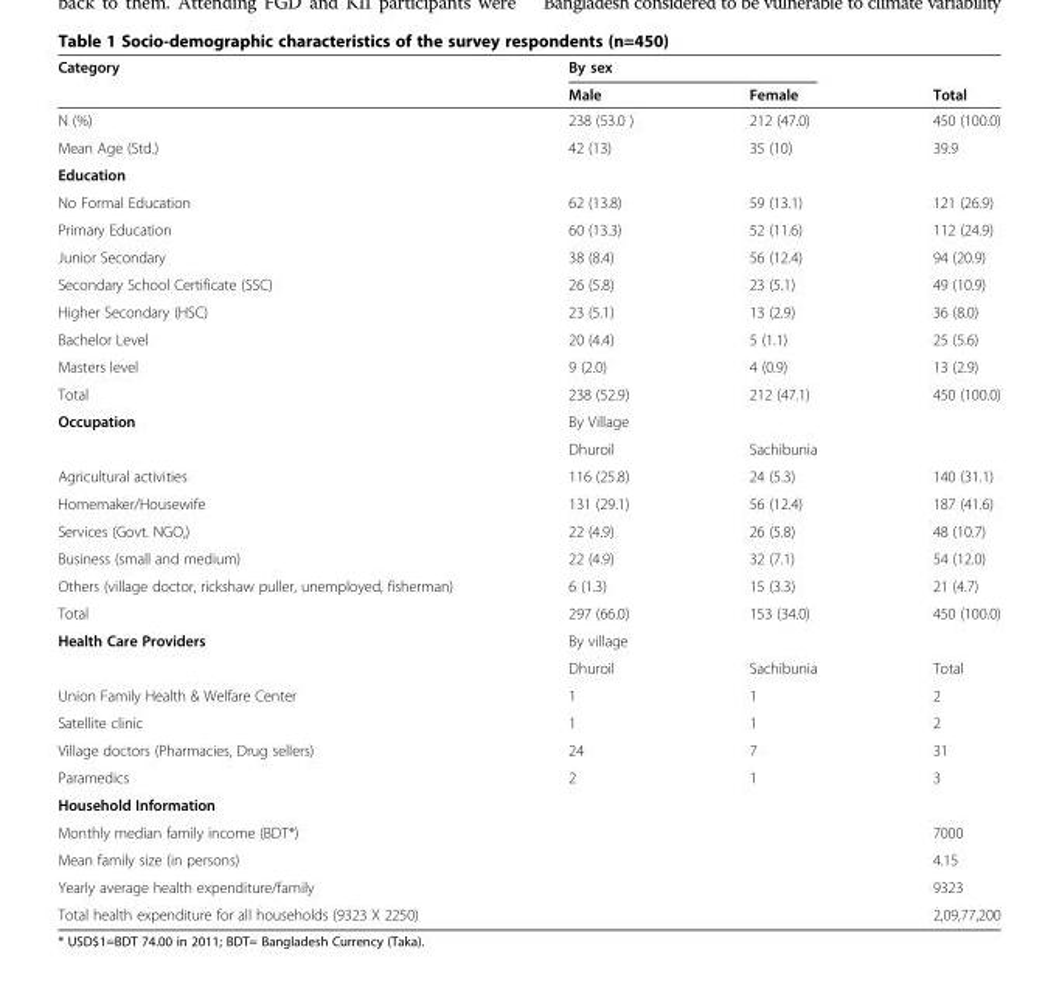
<table><thead><tr><td rowspan="2">Category</td><td colspan="2">By sex</td><td rowspan="2">Total</td></tr><tr><td>Male</td><td>Female</td></tr></thead><tbody><tr><td>N (%)</td><td>238 (53.0 )</td><td>212 (47.0)</td><td>450 (100.0)</td></tr><tr><td>Mean Age (Std.)</td><td>42 (13)</td><td>35 (10)</td><td>39.9</td></tr><tr><td colspan="4">Education</td></tr><tr><td>No Formal Education</td><td>62 (13.8)</td><td>59 (13.1)</td><td>121 (26.9)</td></tr><tr><td>Primary Education</td><td>60 (13.3)</td><td>52 (11.6)</td><td>112 (24.9)</td></tr><tr><td>Junior Secondary</td><td>38 (8.4)</td><td>56 (12.4)</td><td>94 (20.9)</td></tr><tr><td>Secondary School Certificate (SSC)</td><td>26 (5.8)</td><td>23 (5.1)</td><td>49 (10.9)</td></tr><tr><td>Higher Secondary (HSC)</td><td>23 (5.1)</td><td>13 (2.9)</td><td>36 (8.0)</td></tr><tr><td>Bachelor Level</td><td>20 (4.4)</td><td>5 (1.1)</td><td>25 (5.6)</td></tr><tr><td>Masters level</td><td>9 (2.0)</td><td>4 (0.9)</td><td>13 (2.9)</td></tr><tr><td>Total</td><td>238 (52.9)</td><td>212 (47.1)</td><td>450 (100.0)</td></tr><tr><td rowspan="2">Occupation</td><td colspan="2">By Village</td><td></td></tr><tr><td>Dhuroil</td><td>Sachibunia</td><td></td></tr><tr><td>Agricultural activities</td><td>116 (25.8)</td><td>24 (5.3)</td><td>140 (31.1)</td></tr><tr><td>Homemaker/Housewife</td><td>131 (29.1)</td><td>56 (12.4)</td><td>187 (41.6)</td></tr><tr><td>Services (Govt. NGO,)</td><td>22 (4.9)</td><td>26 (5.8)</td><td>48 (10.7)</td></tr><tr><td>Business (small and medium)</td><td>22 (4.9)</td><td>32 (7.1)</td><td>54 (12.0)</td></tr><tr><td>Others (village doctor, rickshaw puller, unemployed, fisherman)</td><td>6 (1.3)</td><td>15 (3.3)</td><td>21 (4.7)</td></tr><tr><td>Total</td><td>297 (66.0)</td><td>153 (34.0)</td><td>450 (100.0)</td></tr><tr><td rowspan="2">Health Care Providers</td><td colspan="3">By village</td></tr><tr><td>Dhuroil</td><td>Sachibunia</td><td>Total</td></tr><tr><td>Union Family Health &amp; Welfare Center</td><td>1</td><td>1</td><td>2</td></tr><tr><td>Satellite clinic</td><td>1</td><td>1</td><td>2</td></tr><tr><td>Village doctors (Pharmacies, Drug sellers)</td><td>24</td><td>7</td><td>31</td></tr><tr><td>Paramedics</td><td>2</td><td>1</td><td>3</td></tr><tr><td colspan="4">Household Information</td></tr><tr><td>Monthly median family income (BDT*)</td><td></td><td></td><td>7000</td></tr><tr><td>Mean family size (in persons)</td><td></td><td></td><td>4.15</td></tr><tr><td>Yearly average health expenditure/family</td><td></td><td></td><td>9323</td></tr><tr><td>Total health expenditure for all households (9323 X 2250)</td><td></td><td></td><td>2,09,77,200</td></tr></tbody></table>